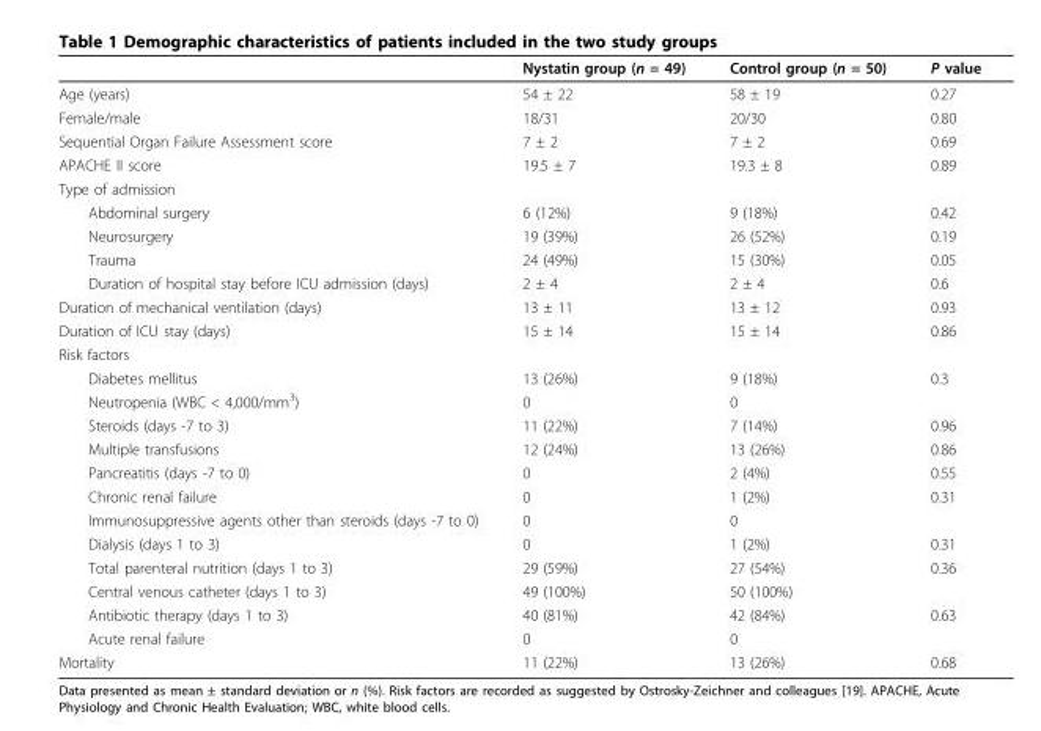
<table><thead><tr><td></td><td>Nystatin group (n = 49)</td><td>Control group (n = 50)</td><td>P value</td></tr></thead><tbody><tr><td>Age (years)</td><td>54 ± 22</td><td>58 ± 19</td><td>0.27</td></tr><tr><td>Female/male</td><td>18/31</td><td>20/30</td><td>0.80</td></tr><tr><td>Sequential Organ Failure Assessment score</td><td>7 ± 2</td><td>7 ± 2</td><td>0.69</td></tr><tr><td>APACHE II score</td><td>19.5 ± 7</td><td>19.3 ± 8</td><td>0.89</td></tr><tr><td colspan="4">Type of admission</td></tr><tr><td>Abdominal surgery</td><td>6 (12%)</td><td>9 (18%)</td><td>0.42</td></tr><tr><td>Neurosurgery</td><td>19 (39%)</td><td>26 (52%)</td><td>0.19</td></tr><tr><td>Trauma</td><td>24 (49%)</td><td>15 (30%)</td><td>0.05</td></tr><tr><td>Duration of hospital stay before ICU admission (days)</td><td>2 ± 4</td><td>2 ± 4</td><td>0.6</td></tr><tr><td>Duration of mechanical ventilation (days)</td><td>13 ± 11</td><td>13 ± 12</td><td>0.93</td></tr><tr><td>Duration of ICU stay (days)</td><td>15 ± 14</td><td>15 ± 14</td><td>0.86</td></tr><tr><td colspan="4">Risk factors</td></tr><tr><td>Diabetes mellitus</td><td>13 (26%)</td><td>9 (18%)</td><td>0.3</td></tr><tr><td>Neutropenia (WBC &lt; 4,000/mm<sup>3</sup>)</td><td>0</td><td>0</td><td></td></tr><tr><td>Steroids (days -7 to 3)</td><td>11 (22%)</td><td>7 (14%)</td><td>0.96</td></tr><tr><td>Multiple transfusions</td><td>12 (24%)</td><td>13 (26%)</td><td>0.86</td></tr><tr><td>Pancreatitis (days -7 to 0)</td><td>0</td><td>2 (4%)</td><td>0.55</td></tr><tr><td>Chronic renal failure</td><td>0</td><td>1 (2%)</td><td>0.31</td></tr><tr><td>Immunosuppressive agents other than steroids (days -7 to 0)</td><td>0</td><td>0</td><td></td></tr><tr><td>Dialysis (days 1 to 3)</td><td>0</td><td>1 (2%)</td><td>0.31</td></tr><tr><td>Total parenteral nutrition (days 1 to 3)</td><td>29 (59%)</td><td>27 (54%)</td><td>0.36</td></tr><tr><td>Central venous catheter (days 1 to 3)</td><td>49 (100%)</td><td>50 (100%)</td><td></td></tr><tr><td>Antibiotic therapy (days 1 to 3)</td><td>40 (81%)</td><td>42 (84%)</td><td>0.63</td></tr><tr><td>Acute renal failure</td><td>0</td><td>0</td><td></td></tr><tr><td>Mortality</td><td>11 (22%)</td><td>13 (26%)</td><td>0.68</td></tr></tbody></table>